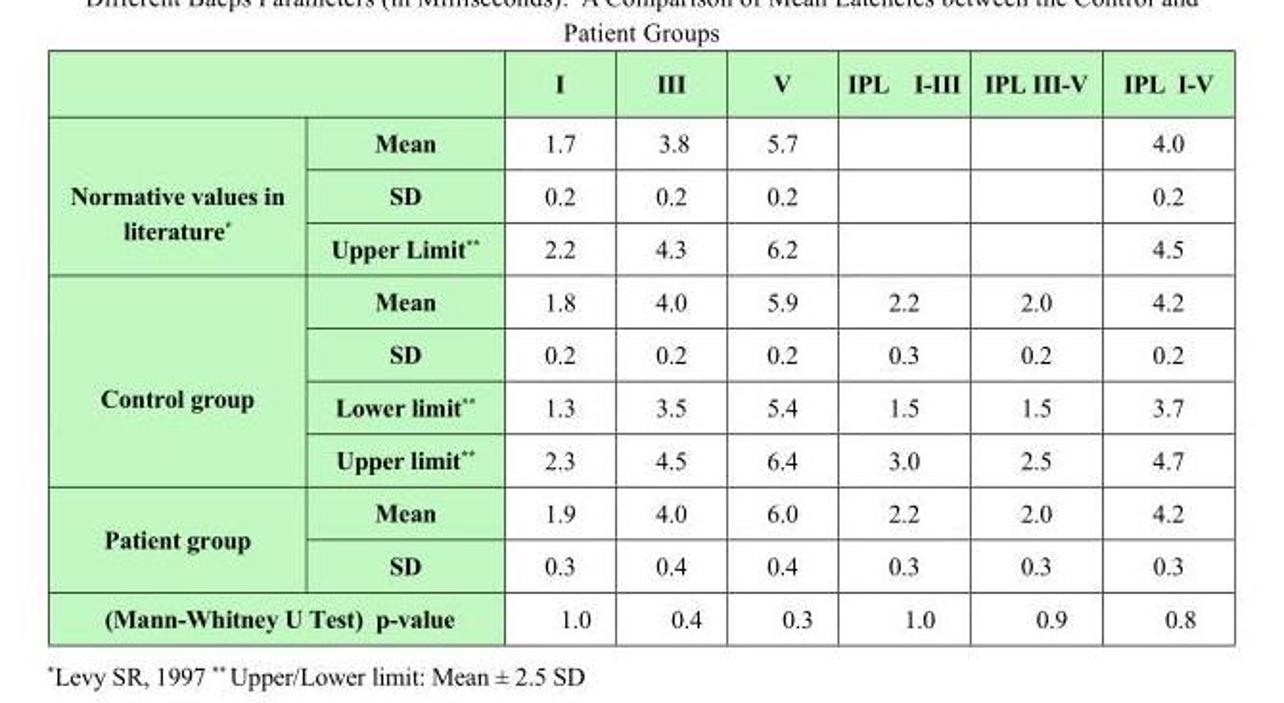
<table><thead><tr><td></td><td></td><td>I</td><td>III</td><td>V</td><td>IPL I-III</td><td>IPL III-V</td><td>IPL I-V</td></tr></thead><tbody><tr><td rowspan="3">Normative values in literature*</td><td>Mean</td><td>1.7</td><td>3.8</td><td>5.7</td><td></td><td></td><td>4.0</td></tr><tr><td>SD</td><td>0.2</td><td>0.2</td><td>0.2</td><td></td><td></td><td>0.2</td></tr><tr><td>Upper Limit**</td><td>2.2</td><td>4.3</td><td>6.2</td><td></td><td></td><td>4.5</td></tr><tr><td rowspan="4">Control group</td><td>Mean</td><td>1.8</td><td>4.0</td><td>5.9</td><td>2.2</td><td>2.0</td><td>4.2</td></tr><tr><td>SD</td><td>0.2</td><td>0.2</td><td>0.2</td><td>0.3</td><td>0.2</td><td>0.2</td></tr><tr><td>Lower limit**</td><td>1.3</td><td>3.5</td><td>5.4</td><td>1.5</td><td>1.5</td><td>3.7</td></tr><tr><td>Upper limit**</td><td>2.3</td><td>4.5</td><td>6.4</td><td>3.0</td><td>2.5</td><td>4.7</td></tr><tr><td rowspan="2">Patient group</td><td>Mean</td><td>1.9</td><td>4.0</td><td>6.0</td><td>2.2</td><td>2.0</td><td>4.2</td></tr><tr><td>SD</td><td>0.3</td><td>0.4</td><td>0.4</td><td>0.3</td><td>0.3</td><td>0.3</td></tr><tr><td colspan="2">(Mann-Whitney U Test) p-value</td><td>1.0</td><td>0.4</td><td>0.3</td><td>1.0</td><td>0.9</td><td>0.8</td></tr></tbody></table>